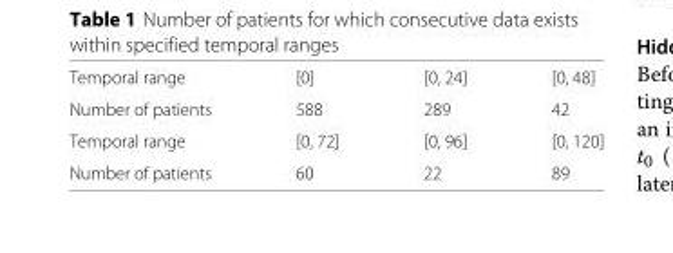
<table><tbody><tr><td>Temporal range</td><td>[0]</td><td>[0, 24]</td><td>[0, 48]</td></tr><tr><td>Number of patients</td><td>588</td><td>289</td><td>42</td></tr><tr><td>Temporal range</td><td>[0, 72]</td><td>[0, 96]</td><td>[0, 120]</td></tr><tr><td>Number of patients</td><td>60</td><td>22</td><td>89</td></tr></tbody></table>